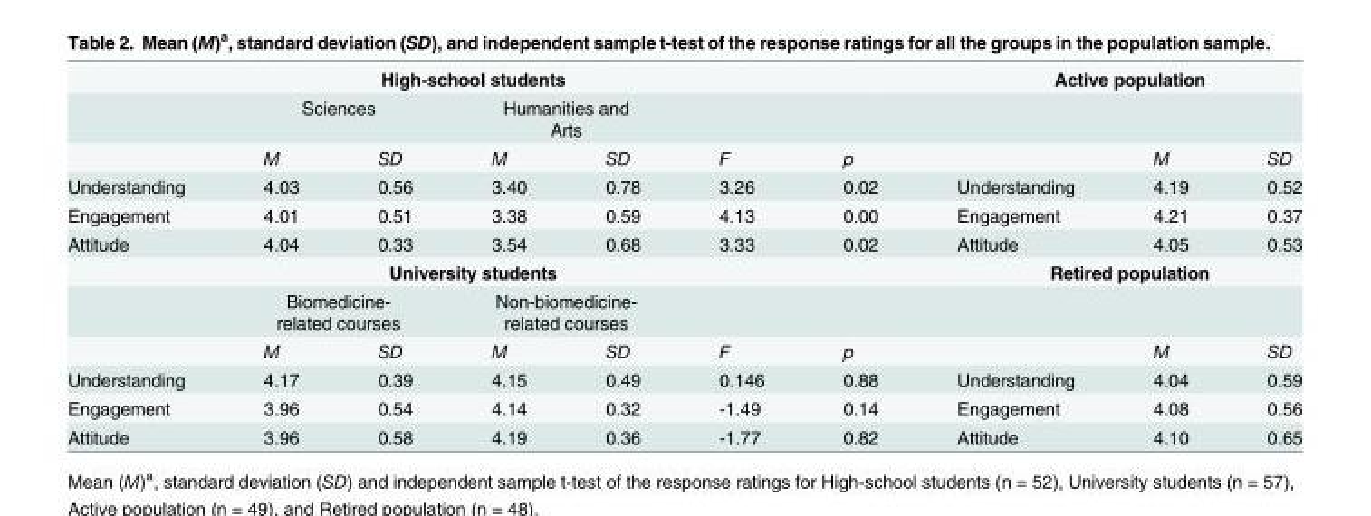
<table><tbody><tr><td colspan="7">High-school students</td><td colspan="3">Active population</td></tr><tr><td></td><td colspan="2">Sciences</td><td colspan="2">Humanities and Arts</td><td colspan="2"></td><td colspan="3"></td></tr><tr><td></td><td>M</td><td>SD</td><td>M</td><td>SD</td><td>F</td><td>p</td><td></td><td>M</td><td>SD</td></tr><tr><td>Understanding</td><td>4.03</td><td>0.56</td><td>3.40</td><td>0.78</td><td>3.26</td><td>0.02</td><td>Understanding</td><td>4.19</td><td>0.52</td></tr><tr><td>Engagement</td><td>4.01</td><td>0.51</td><td>3.38</td><td>0.59</td><td>4.13</td><td>0.00</td><td>Engagement</td><td>4.21</td><td>0.37</td></tr><tr><td>Attitude</td><td>4.04</td><td>0.33</td><td>3.54</td><td>0.68</td><td>3.33</td><td>0.02</td><td>Attitude</td><td>4.05</td><td>0.53</td></tr><tr><td colspan="7">University students</td><td colspan="3">Retired population</td></tr><tr><td></td><td colspan="2">Biomedicine- related courses</td><td colspan="2">Non-biomedicine- related courses</td><td colspan="2"></td><td colspan="3"></td></tr><tr><td></td><td>M</td><td>SD</td><td>M</td><td>SD</td><td>F</td><td>p</td><td></td><td>M</td><td>SD</td></tr><tr><td>Understanding</td><td>4.17</td><td>0.39</td><td>4.15</td><td>0.49</td><td>0.146</td><td>0.88</td><td>Understanding</td><td>4.04</td><td>0.59</td></tr><tr><td>Engagement</td><td>3.96</td><td>0.54</td><td>4.14</td><td>0.32</td><td>-1.49</td><td>0.14</td><td>Engagement</td><td>4.08</td><td>0.56</td></tr><tr><td>Attitude</td><td>3.96</td><td>0.58</td><td>4.19</td><td>0.36</td><td>-1.77</td><td>0.82</td><td>Attitude</td><td>4.10</td><td>0.65</td></tr></tbody></table>